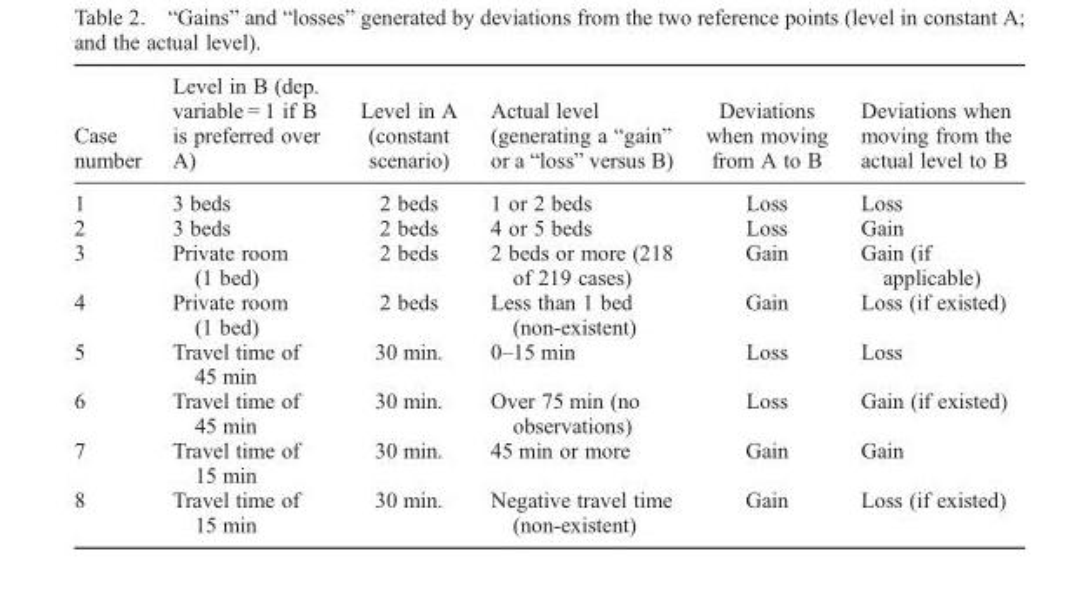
<table><thead><tr><td>Case number</td><td>Level in B (dep. variable = 1 if B is preferred over A)</td><td>Level in A (constant scenario)</td><td>Actual level (generating a “gain” or a “loss” versus B)</td><td>Deviations when moving from A to B</td><td>Deviations when moving from the actual level to B</td></tr></thead><tbody><tr><td>1</td><td>3 beds</td><td>2 beds</td><td>1 or 2 beds</td><td>Loss</td><td>Loss</td></tr><tr><td>2</td><td>3 beds</td><td>2 beds</td><td>4 or 5 beds</td><td>Loss</td><td>Gain</td></tr><tr><td>3</td><td>Private room (1 bed)</td><td>2 beds</td><td>2 beds or more (218 of 219 cases)</td><td>Gain</td><td>Gain (if applicable)</td></tr><tr><td>4</td><td>Private room (1 bed)</td><td>2 beds</td><td>Less than 1 bed (non-existent)</td><td>Gain</td><td>Loss (if existed)</td></tr><tr><td>5</td><td>Travel time of 45 min</td><td>30 min.</td><td>0–15 min</td><td>Loss</td><td>Loss</td></tr><tr><td>6</td><td>Travel time of 45 min</td><td>30 min.</td><td>Over 75 min (no observations)</td><td>Loss</td><td>Gain (if existed)</td></tr><tr><td>7</td><td>Travel time of 15 min</td><td>30 min.</td><td>45 min or more</td><td>Gain</td><td>Gain</td></tr><tr><td>8</td><td>Travel time of 15 min</td><td>30 min.</td><td>Negative travel time (non-existent)</td><td>Gain</td><td>Loss (if existed)</td></tr></tbody></table>